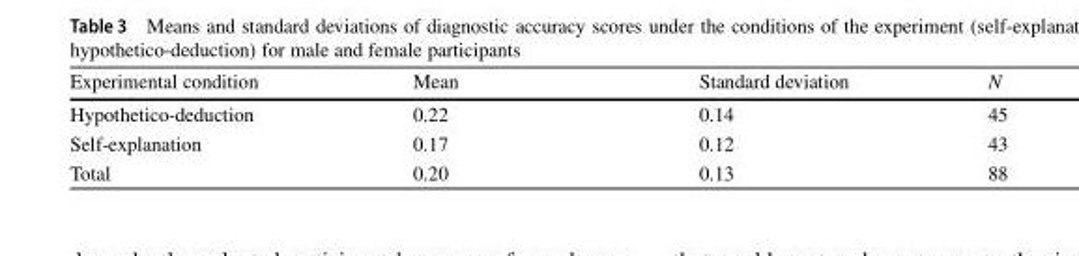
<table><thead><tr><td>Experimental condition</td><td>Mean</td><td>Standard deviation</td><td>N</td></tr></thead><tbody><tr><td>Hypothetico-deduction</td><td>0.22</td><td>0.14</td><td>45</td></tr><tr><td>Self-explanation</td><td>0.17</td><td>0.12</td><td>43</td></tr><tr><td>Total</td><td>0.20</td><td>0.13</td><td>88</td></tr></tbody></table>